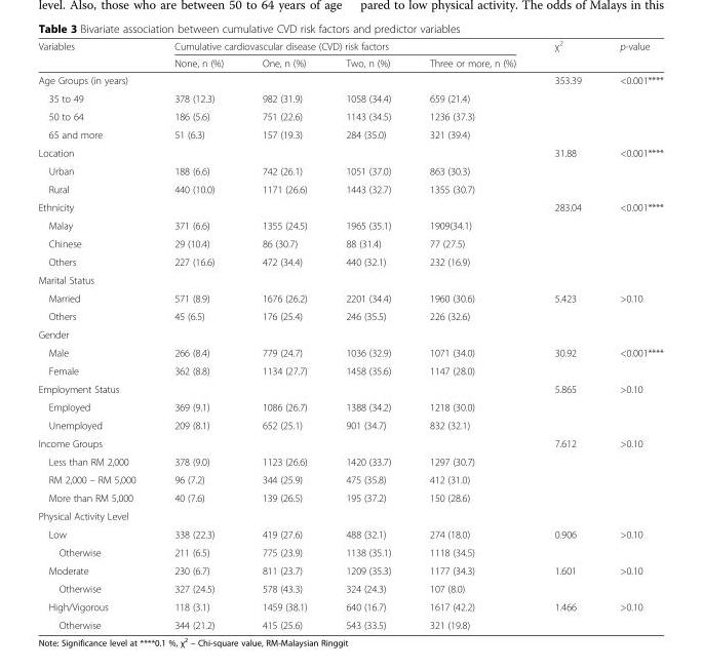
<table><thead><tr><td rowspan="2">Variables</td><td colspan="4">Cumulative cardiovascular disease (CVD) risk factors</td><td rowspan="2">χ<sup>2</sup></td><td rowspan="2">p-value</td></tr><tr><td>None, n (%)</td><td>One, n (%)</td><td>Two, n (%)</td><td>Three or more, n (%)</td></tr></thead><tbody><tr><td>Age Groups (in years)</td><td></td><td></td><td></td><td></td><td>353.39</td><td>&lt;0.001****</td></tr><tr><td>35 to 49</td><td>378 (12.3)</td><td>982 (31.9)</td><td>1058 (34.4)</td><td>659 (21.4)</td><td></td><td></td></tr><tr><td>50 to 64</td><td>186 (5.6)</td><td>751 (22.6)</td><td>1143 (34.5)</td><td>1236 (37.3)</td><td></td><td></td></tr><tr><td>65 and more</td><td>51 (6.3)</td><td>157 (19.3)</td><td>284 (35.0)</td><td>321 (39.4)</td><td></td><td></td></tr><tr><td>Location</td><td></td><td></td><td></td><td></td><td>31.88</td><td>&lt;0.001****</td></tr><tr><td>Urban</td><td>188 (6.6)</td><td>742 (26.1)</td><td>1051 (37.0)</td><td>863 (30.3)</td><td></td><td></td></tr><tr><td>Rural</td><td>440 (10.0)</td><td>1171 (26.6)</td><td>1443 (32.7)</td><td>1355 (30.7)</td><td></td><td></td></tr><tr><td>Ethnicity</td><td></td><td></td><td></td><td></td><td>283.04</td><td>&lt;0.001****</td></tr><tr><td>Malay</td><td>371 (6.6)</td><td>1355 (24.5)</td><td>1965 (35.1)</td><td>1909(34.1)</td><td></td><td></td></tr><tr><td>Chinese</td><td>29 (10.4)</td><td>86 (30.7)</td><td>88 (31.4)</td><td>77 (27.5)</td><td></td><td></td></tr><tr><td>Others</td><td>227 (16.6)</td><td>472 (34.4)</td><td>440 (32.1)</td><td>232 (16.9)</td><td></td><td></td></tr><tr><td colspan="7">Marital Status</td></tr><tr><td>Married</td><td>571 (8.9)</td><td>1676 (26.2)</td><td>2201 (34.4)</td><td>1960 (30.6)</td><td>5.423</td><td>&gt;0.10</td></tr><tr><td>Others</td><td>45 (6.5)</td><td>176 (25.4)</td><td>246 (35.5)</td><td>226 (32.6)</td><td></td><td></td></tr><tr><td colspan="7">Gender</td></tr><tr><td>Male</td><td>266 (8.4)</td><td>779 (24.7)</td><td>1036 (32.9)</td><td>1071 (34.0)</td><td>30.92</td><td>&lt;0.001****</td></tr><tr><td>Female</td><td>362 (8.8)</td><td>1134 (27.7)</td><td>1458 (35.6)</td><td>1147 (28.0)</td><td></td><td></td></tr><tr><td>Employment Status</td><td></td><td></td><td></td><td></td><td>5.865</td><td>&gt;0.10</td></tr><tr><td>Employed</td><td>369 (9.1)</td><td>1086 (26.7)</td><td>1388 (34.2)</td><td>1218 (30.0)</td><td></td><td></td></tr><tr><td>Unemployed</td><td>209 (8.1)</td><td>652 (25.1)</td><td>901 (34.7)</td><td>832 (32.1)</td><td></td><td></td></tr><tr><td>Income Groups</td><td></td><td></td><td></td><td></td><td>7.612</td><td>&gt;0.10</td></tr><tr><td>Less than RM 2,000</td><td>378 (9.0)</td><td>1123 (26.6)</td><td>1420 (33.7)</td><td>1297 (30.7)</td><td></td><td></td></tr><tr><td>RM 2,000 – RM 5,000</td><td>96 (7.2)</td><td>344 (25.9)</td><td>475 (35.8)</td><td>412 (31.0)</td><td></td><td></td></tr><tr><td>More than RM 5,000</td><td>40 (7.6)</td><td>139 (26.5)</td><td>195 (37.2)</td><td>150 (28.6)</td><td></td><td></td></tr><tr><td colspan="7">Physical Activity Level</td></tr><tr><td>Low</td><td>338 (22.3)</td><td>419 (27.6)</td><td>488 (32.1)</td><td>274 (18.0)</td><td>0.906</td><td>&gt;0.10</td></tr><tr><td>Otherwise</td><td>211 (6.5)</td><td>775 (23.9)</td><td>1138 (35.1)</td><td>1118 (34.5)</td><td></td><td></td></tr><tr><td>Moderate</td><td>230 (6.7)</td><td>811 (23.7)</td><td>1209 (35.3)</td><td>1177 (34.3)</td><td>1.601</td><td>&gt;0.10</td></tr><tr><td>Otherwise</td><td>327 (24.5)</td><td>578 (43.3)</td><td>324 (24.3)</td><td>107 (8.0)</td><td></td><td></td></tr><tr><td>High/Vigorous</td><td>118 (3.1)</td><td>1459 (38.1)</td><td>640 (16.7)</td><td>1617 (42.2)</td><td>1.466</td><td>&gt;0.10</td></tr><tr><td>Otherwise</td><td>344 (21.2)</td><td>415 (25.6)</td><td>543 (33.5)</td><td>321 (19.8)</td><td></td><td></td></tr></tbody></table>